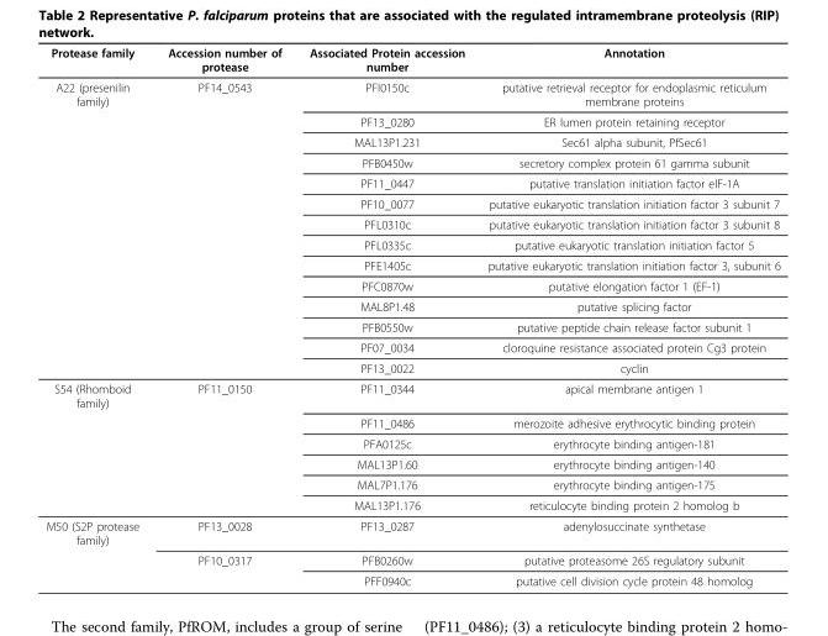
<table><thead><tr><td>Protease family</td><td>Accession number of protease</td><td>Associated Protein accession number</td><td>Annotation</td></tr></thead><tbody><tr><td rowspan="14">A22 (presenilin family)</td><td>PF14_0543</td><td>PFI0150c</td><td>putative retrieval receptor for endoplasmic reticulum membrane proteins</td></tr><tr><td></td><td>PF13_0280</td><td>ER lumen protein retaining receptor</td></tr><tr><td></td><td>MAL13P1.231</td><td>Sec61 alpha subunit, PfSec61</td></tr><tr><td></td><td>PFB0450w</td><td>secretory complex protein 61 gamma subunit</td></tr><tr><td></td><td>PF11_0447</td><td>putative translation initiation factor eIF-1A</td></tr><tr><td></td><td>PF10_0077</td><td>putative eukaryotic translation initiation factor 3 subunit 7</td></tr><tr><td></td><td>PFL0310c</td><td>putative eukaryotic translation initiation factor 3 subunit 8</td></tr><tr><td></td><td>PFL0335c</td><td>putative eukaryotic translation initiation factor 5</td></tr><tr><td></td><td>PFE1405c</td><td>putative eukaryotic translation initiation factor 3, subunit 6</td></tr><tr><td></td><td>PFC0870w</td><td>putative elongation factor 1 (EF-1)</td></tr><tr><td></td><td>MAL8P1.48</td><td>putative splicing factor</td></tr><tr><td></td><td>PFB0550w</td><td>putative peptide chain release factor subunit 1</td></tr><tr><td></td><td>PF07_0034</td><td>cloroquine resistance associated protein Cg3 protein</td></tr><tr><td></td><td>PF13_0022</td><td>cyclin</td></tr><tr><td rowspan="6">S54 (Rhomboid family)</td><td>PF11_0150</td><td>PF11_0344</td><td>apical membrane antigen 1</td></tr><tr><td></td><td>PF11_0486</td><td>merozoite adhesive erythrocytic binding protein</td></tr><tr><td></td><td>PFA0125c</td><td>erythrocyte binding antigen-181</td></tr><tr><td></td><td>MAL13P1.60</td><td>erythrocyte binding antigen-140</td></tr><tr><td></td><td>MAL7P1.176</td><td>erythrocyte binding antigen-175</td></tr><tr><td></td><td>MAL13P1.176</td><td>reticulocyte binding protein 2 homolog b</td></tr><tr><td rowspan="3">M50 (S2P protease family)</td><td>PF13_0028</td><td>PF13_0287</td><td>adenylosuccinate synthetase</td></tr><tr><td>PF10_0317</td><td>PFB0260w</td><td>putative proteasome 26S regulatory subunit</td></tr><tr><td></td><td>PFF0940c</td><td>putative cell division cycle protein 48 homolog</td></tr></tbody></table>